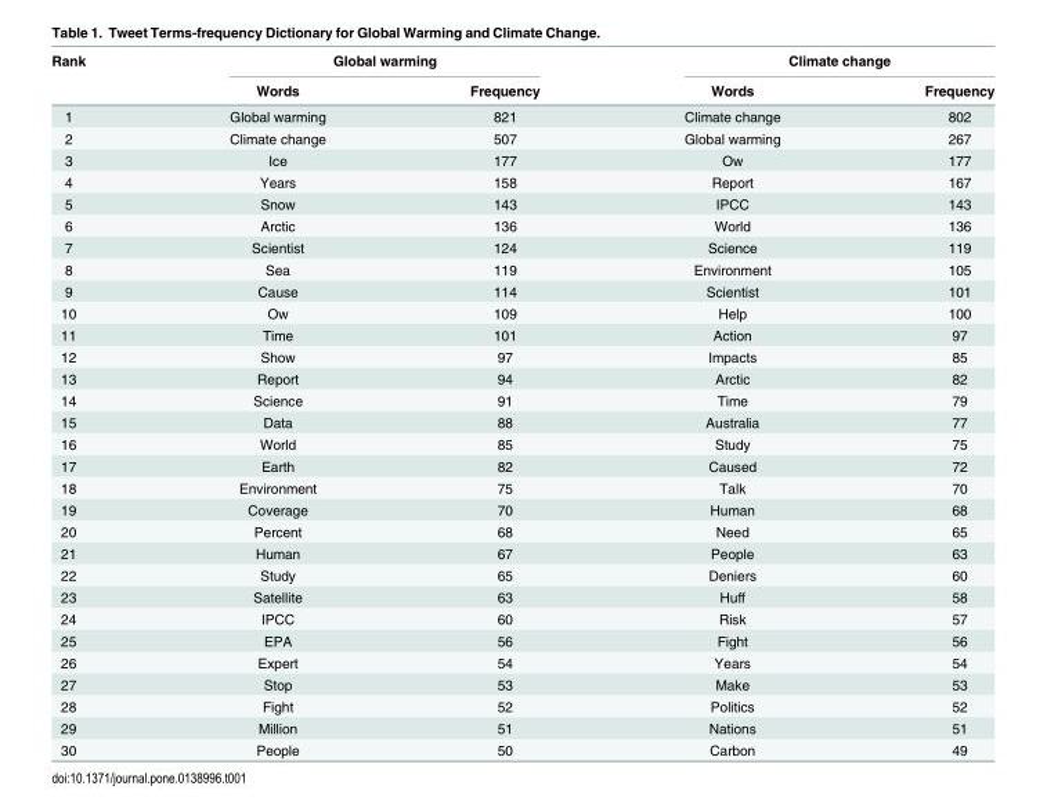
<table><thead><tr><td rowspan="2">Rank</td><td colspan="2">Global warming</td><td colspan="2">Climate change</td></tr><tr><td>Words</td><td>Frequency</td><td>Words</td><td>Frequency</td></tr></thead><tbody><tr><td>1</td><td>Global warming</td><td>821</td><td>Climate change</td><td>802</td></tr><tr><td>2</td><td>Climate change</td><td>507</td><td>Global warming</td><td>267</td></tr><tr><td>3</td><td>Ice</td><td>177</td><td>Ow</td><td>177</td></tr><tr><td>4</td><td>Years</td><td>158</td><td>Report</td><td>167</td></tr><tr><td>5</td><td>Snow</td><td>143</td><td>IPCC</td><td>143</td></tr><tr><td>6</td><td>Arctic</td><td>136</td><td>World</td><td>136</td></tr><tr><td>7</td><td>Scientist</td><td>124</td><td>Science</td><td>119</td></tr><tr><td>8</td><td>Sea</td><td>119</td><td>Environment</td><td>105</td></tr><tr><td>9</td><td>Cause</td><td>114</td><td>Scientist</td><td>101</td></tr><tr><td>10</td><td>Ow</td><td>109</td><td>Help</td><td>100</td></tr><tr><td>11</td><td>Time</td><td>101</td><td>Action</td><td>97</td></tr><tr><td>12</td><td>Show</td><td>97</td><td>Impacts</td><td>85</td></tr><tr><td>13</td><td>Report</td><td>94</td><td>Arctic</td><td>82</td></tr><tr><td>14</td><td>Science</td><td>91</td><td>Time</td><td>79</td></tr><tr><td>15</td><td>Data</td><td>88</td><td>Australia</td><td>77</td></tr><tr><td>16</td><td>World</td><td>85</td><td>Study</td><td>75</td></tr><tr><td>17</td><td>Earth</td><td>82</td><td>Caused</td><td>72</td></tr><tr><td>18</td><td>Environment</td><td>75</td><td>Talk</td><td>70</td></tr><tr><td>19</td><td>Coverage</td><td>70</td><td>Human</td><td>68</td></tr><tr><td>20</td><td>Percent</td><td>68</td><td>Need</td><td>65</td></tr><tr><td>21</td><td>Human</td><td>67</td><td>People</td><td>63</td></tr><tr><td>22</td><td>Study</td><td>65</td><td>Deniers</td><td>60</td></tr><tr><td>23</td><td>Satellite</td><td>63</td><td>Huff</td><td>58</td></tr><tr><td>24</td><td>IPCC</td><td>60</td><td>Risk</td><td>57</td></tr><tr><td>25</td><td>EPA</td><td>56</td><td>Fight</td><td>56</td></tr><tr><td>26</td><td>Expert</td><td>54</td><td>Years</td><td>54</td></tr><tr><td>27</td><td>Stop</td><td>53</td><td>Make</td><td>53</td></tr><tr><td>28</td><td>Fight</td><td>52</td><td>Politics</td><td>52</td></tr><tr><td>29</td><td>Million</td><td>51</td><td>Nations</td><td>51</td></tr><tr><td>30</td><td>People</td><td>50</td><td>Carbon</td><td>49</td></tr></tbody></table>